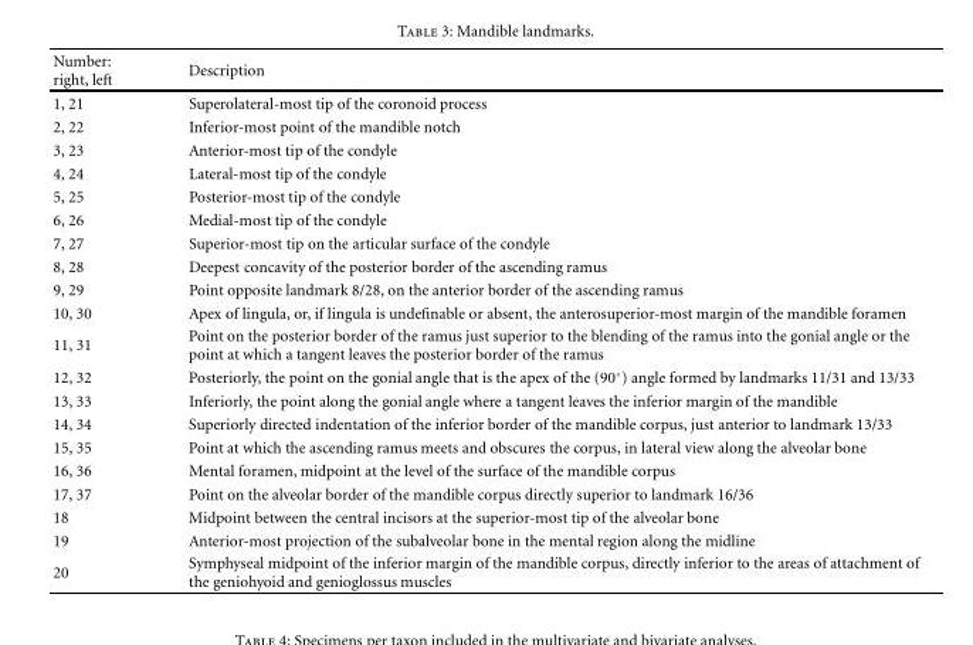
<table><thead><tr><td>Number: right, left</td><td>Description</td></tr></thead><tbody><tr><td>1, 21</td><td>Superolateral-most tip of the coronoid process</td></tr><tr><td>2, 22</td><td>Inferior-most point of the mandible notch</td></tr><tr><td>3, 23</td><td>Anterior-most tip of the condyle</td></tr><tr><td>4, 24</td><td>Lateral-most tip of the condyle</td></tr><tr><td>5, 25</td><td>Posterior-most tip of the condyle</td></tr><tr><td>6, 26</td><td>Medial-most tip of the condyle</td></tr><tr><td>7, 27</td><td>Superior-most tip on the articular surface of the condyle</td></tr><tr><td>8, 28</td><td>Deepest concavity of the posterior border of the ascending ramus</td></tr><tr><td>9, 29</td><td>Point opposite landmark 8/28, on the anterior border of the ascending ramus</td></tr><tr><td>10, 30</td><td>Apex of lingula, or, if lingula is undefinable or absent, the anterosuperior-most margin of the mandible foramen</td></tr><tr><td>11, 31</td><td>Point on the posterior border of the ramus just superior to the blending of the ramus into the gonial angle or the point at which a tangent leaves the posterior border of the ramus</td></tr><tr><td>12, 32</td><td>Posteriorly, the point on the gonial angle that is the apex of the (90◦) angle formed by landmarks 11/31 and 13/33</td></tr><tr><td>13, 33</td><td>Inferiorly, the point along the gonial angle where a tangent leaves the inferior margin of the mandible</td></tr><tr><td>14, 34</td><td>Superiorly directed indentation of the inferior border of the mandible corpus, just anterior to landmark 13/33</td></tr><tr><td>15, 35</td><td>Point at which the ascending ramus meets and obscures the corpus, in lateral view along the alveolar bone</td></tr><tr><td>16, 36</td><td>Mental foramen, midpoint at the level of the surface of the mandible corpus</td></tr><tr><td>17, 37</td><td>Point on the alveolar border of the mandible corpus directly superior to landmark 16/36</td></tr><tr><td>18</td><td>Midpoint between the central incisors at the superior-most tip of the alveolar bone</td></tr><tr><td>19</td><td>Anterior-most projection of the subalveolar bone in the mental region along the midline</td></tr><tr><td>20</td><td>Symphyseal midpoint of the inferior margin of the mandible corpus, directly inferior to the areas of attachment of the geniohyoid and genioglossus muscles</td></tr></tbody></table>